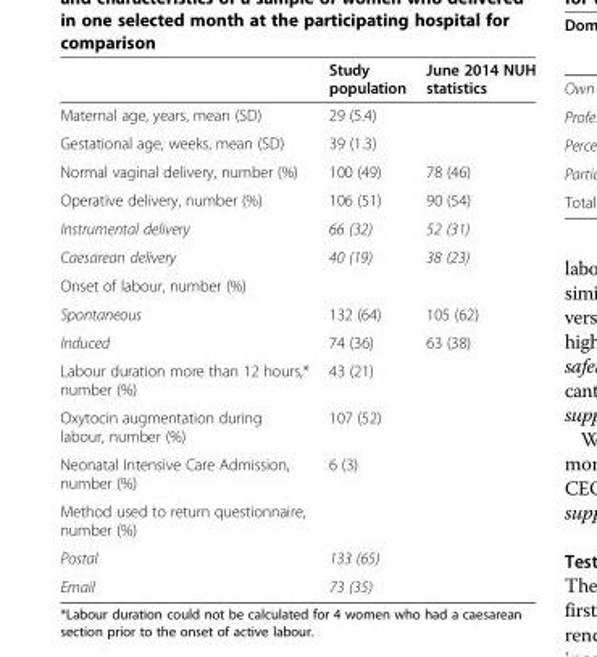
<table><thead><tr><td></td><td>Study population</td><td>June 2014 NUH statistics</td></tr></thead><tbody><tr><td>Maternal age, years, mean (SD)</td><td>29 (5.4)</td><td></td></tr><tr><td>Gestational age, weeks, mean (SD)</td><td>39 (1.3)</td><td></td></tr><tr><td>Normal vaginal delivery, number (%)</td><td>100 (49)</td><td>78 (46)</td></tr><tr><td>Operative delivery, number (%)</td><td>106 (51)</td><td>90 (54)</td></tr><tr><td>Instrumental delivery</td><td>66 (32)</td><td>52 (31)</td></tr><tr><td>Caesarean delivery</td><td>40 (19)</td><td>38 (23)</td></tr><tr><td colspan="3">Onset of labour, number (%)</td></tr><tr><td>Spontaneous</td><td>132 (64)</td><td>105 (62)</td></tr><tr><td>Induced</td><td>74 (36)</td><td>63 (38)</td></tr><tr><td>Labour duration more than 12 hours,* number (%)</td><td>43 (21)</td><td></td></tr><tr><td>Oxytocin augmentation during labour, number (%)</td><td>107 (52)</td><td></td></tr><tr><td>Neonatal Intensive Care Admission, number (%)</td><td>6 (3)</td><td></td></tr><tr><td colspan="3">Method used to return questionnaire, number (%)</td></tr><tr><td>Postal</td><td>133 (65)</td><td></td></tr><tr><td>Email</td><td>73 (35)</td><td></td></tr></tbody></table>